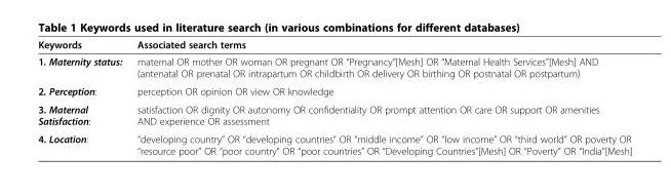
<table><thead><tr><td>Keywords</td><td>Associated search terms</td></tr></thead><tbody><tr><td>1. Maternity status:</td><td>maternal OR mother OR woman OR pregnant OR “Pregnancy”[Mesh] OR “Maternal Health Services”[Mesh] AND (antenatal OR prenatal OR intrapartum OR childbirth OR delivery OR birthing OR postnatal OR postpartum)</td></tr><tr><td>2. Perception:</td><td>perception OR opinion OR view OR knowledge</td></tr><tr><td>3. Maternal Satisfaction:</td><td>satisfaction OR dignity OR autonomy OR confidentiality OR prompt attention OR care OR support OR amenities AND experience OR assessment</td></tr><tr><td>4. Location:</td><td>“developing country” OR “developing countries” OR “middle income” OR “low income” OR “third world” OR poverty OR “resource poor” OR “poor country” OR “poor countries” OR “Developing Countries”[Mesh] OR “Poverty” OR “India”[Mesh]</td></tr></tbody></table>